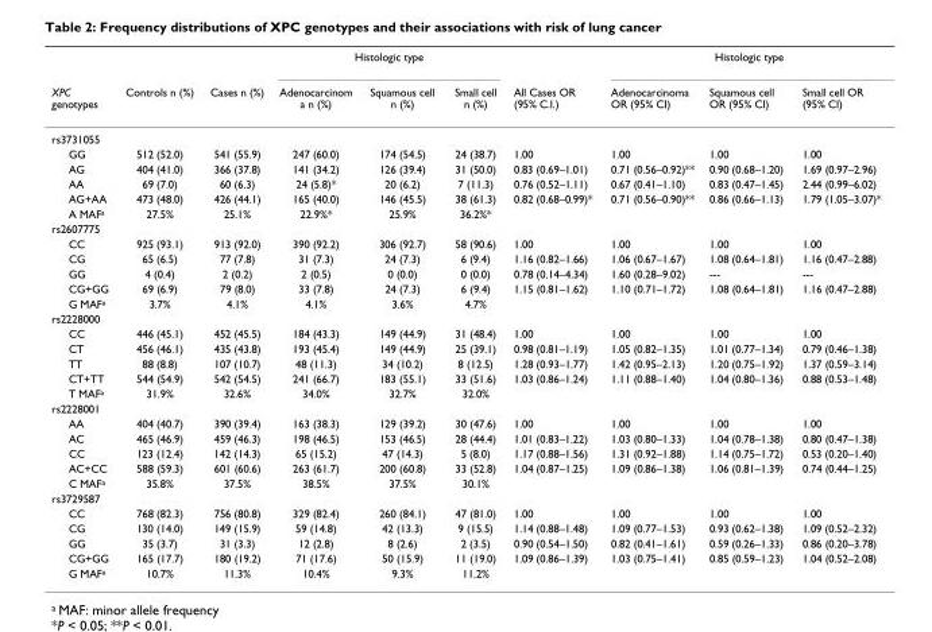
<table><thead><tr><td rowspan="2">XPC genotypes</td><td rowspan="2">Controls n (%)</td><td rowspan="2">Cases n (%)</td><td colspan="3">Histologic type</td><td rowspan="2">All Cases OR (95% C.I.)</td><td colspan="3">Histologic type</td></tr><tr><td>Adenocarcinom a n (%)</td><td>Squamous cell n (%)</td><td>Small cell n (%)</td><td>Adenocarcinoma OR (95% CI)</td><td>Squamous cell OR (95% CI)</td><td>Small cell OR (95% CI)</td></tr></thead><tbody><tr><td colspan="10">rs3731055</td></tr><tr><td>GG</td><td>512 (52.0)</td><td>541 (55.9)</td><td>247 (60.0)</td><td>174 (54.5)</td><td>24 (38.7)</td><td>1.00</td><td>1.00</td><td>1.00</td><td>1.00</td></tr><tr><td>AG</td><td>404 (41.0)</td><td>366 (37.8)</td><td>141 (34.2)</td><td>126 (39.4)</td><td>31 (50.0)</td><td>0.83 (0.69–1.01)</td><td>0.71 (0.56–0.92)**</td><td>0.90 (0.68–1.20)</td><td>1.69 (0.97–2.96)</td></tr><tr><td>AA</td><td>69 (7.0)</td><td>60 (6.3)</td><td>24 (5.8)*</td><td>20 (6.2)</td><td>7 (11.3)</td><td>0.76 (0.52–1.11)</td><td>0.67 (0.41–1.10)</td><td>0.83 (0.47–1.45)</td><td>2.44 (0.99–6.02)</td></tr><tr><td>AG+AA</td><td>473 (48.0)</td><td>426 (44.1)</td><td>165 (40.0)</td><td>146 (45.5)</td><td>38 (61.3)</td><td>0.82 (0.68–0.99)*</td><td>0.71 (0.56–0.90)**</td><td>0.86 (0.66–1.13)</td><td>1.79 (1.05–3.07)*</td></tr><tr><td>A MAFa</td><td>27.5%</td><td>25.1%</td><td>22.9%*</td><td>25.9%</td><td>36.2%*</td><td></td><td></td><td></td><td></td></tr><tr><td colspan="10">rs2607775</td></tr><tr><td>CC</td><td>925 (93.1)</td><td>913 (92.0)</td><td>390 (92.2)</td><td>306 (92.7)</td><td>58 (90.6)</td><td>1.00</td><td>1.00</td><td>1.00</td><td>1.00</td></tr><tr><td>CG</td><td>65 (6.5)</td><td>77 (7.8)</td><td>31 (7.3)</td><td>24 (7.3)</td><td>6 (9.4)</td><td>1.16 (0.82–1.66)</td><td>1.06 (0.67–1.67)</td><td>1.08 (0.64–1.81)</td><td>1.16 (0.47–2.88)</td></tr><tr><td>GG</td><td>4 (0.4)</td><td>2 (0.2)</td><td>2 (0.5)</td><td>0 (0.0)</td><td>0 (0.0)</td><td>0.78 (0.14–4.34)</td><td>1.60 (0.28–9.02)</td><td>---</td><td>---</td></tr><tr><td>CG+GG</td><td>69 (6.9)</td><td>79 (8.0)</td><td>33 (7.8)</td><td>24 (7.3)</td><td>6 (9.4)</td><td>1.15 (0.81–1.62)</td><td>1.10 (0.71–1.72)</td><td>1.08 (0.64–1.81)</td><td>1.16 (0.47–2.88)</td></tr><tr><td>G MAFa</td><td>3.7%</td><td>4.1%</td><td>4.1%</td><td>3.6%</td><td>4.7%</td><td></td><td></td><td></td><td></td></tr><tr><td colspan="10">rs2228000</td></tr><tr><td>CC</td><td>446 (45.1)</td><td>452 (45.5)</td><td>184 (43.3)</td><td>149 (44.9)</td><td>31 (48.4)</td><td>1.00</td><td>1.00</td><td>1.00</td><td>1.00</td></tr><tr><td>CT</td><td>456 (46.1)</td><td>435 (43.8)</td><td>193 (45.4)</td><td>149 (44.9)</td><td>25 (39.1)</td><td>0.98 (0.81–1.19)</td><td>1.05 (0.82–1.35)</td><td>1.01 (0.77–1.34)</td><td>0.79 (0.46–1.38)</td></tr><tr><td>TT</td><td>88 (8.8)</td><td>107 (10.7)</td><td>48 (11.3)</td><td>34 (10.2)</td><td>8 (12.5)</td><td>1.28 (0.93–1.77)</td><td>1.42 (0.95–2.13)</td><td>1.20 (0.75–1.92)</td><td>1.37 (0.59–3.14)</td></tr><tr><td>CT+TT</td><td>544 (54.9)</td><td>542 (54.5)</td><td>241 (66.7)</td><td>183 (55.1)</td><td>33 (51.6)</td><td>1.03 (0.86–1.24)</td><td>1.11 (0.88–1.40)</td><td>1.04 (0.80–1.36)</td><td>0.88 (0.53–1.48)</td></tr><tr><td>T MAFa</td><td>31.9%</td><td>32.6%</td><td>34.0%</td><td>32.7%</td><td>32.0%</td><td></td><td></td><td></td><td></td></tr><tr><td colspan="10">rs2228001</td></tr><tr><td>AA</td><td>404 (40.7)</td><td>390 (39.4)</td><td>163 (38.3)</td><td>129 (39.2)</td><td>30 (47.6)</td><td>1.00</td><td>1.00</td><td>1.00</td><td>1.00</td></tr><tr><td>AC</td><td>465 (46.9)</td><td>459 (46.3)</td><td>198 (46.5)</td><td>153 (46.5)</td><td>28 (44.4)</td><td>1.01 (0.83–1.22)</td><td>1.03 (0.80–1.33)</td><td>1.04 (0.78–1.38)</td><td>0.80 (0.47–1.38)</td></tr><tr><td>CC</td><td>123 (12.4)</td><td>142 (14.3)</td><td>65 (15.2)</td><td>47 (14.3)</td><td>5 (8.0)</td><td>1.17 (0.88–1.56)</td><td>1.31 (0.92–1.88)</td><td>1.14 (0.75–1.72)</td><td>0.53 (0.20–1.40)</td></tr><tr><td>AC+CC</td><td>588 (59.3)</td><td>601 (60.6)</td><td>263 (61.7)</td><td>200 (60.8)</td><td>33 (52.8)</td><td>1.04 (0.87–1.25)</td><td>1.09 (0.86–1.38)</td><td>1.06 (0.81–1.39)</td><td>0.74 (0.44–1.25)</td></tr><tr><td>C MAFa</td><td>35.8%</td><td>37.5%</td><td>38.5%</td><td>37.5%</td><td>30.1%</td><td></td><td></td><td></td><td></td></tr><tr><td colspan="10">rs3729587</td></tr><tr><td>CC</td><td>768 (82.3)</td><td>756 (80.8)</td><td>329 (82.4)</td><td>260 (84.1)</td><td>47 (81.0)</td><td>1.00</td><td>1.00</td><td>1.00</td><td>1.00</td></tr><tr><td>CG</td><td>130 (14.0)</td><td>149 (15.9)</td><td>59 (14.8)</td><td>42 (13.3)</td><td>9 (15.5)</td><td>1.14 (0.88–1.48)</td><td>1.09 (0.77–1.53)</td><td>0.93 (0.62–1.38)</td><td>1.09 (0.52–2.32)</td></tr><tr><td>GG</td><td>35 (3.7)</td><td>31 (3.3)</td><td>12 (2.8)</td><td>8 (2.6)</td><td>2 (3.5)</td><td>0.90 (0.54–1.50)</td><td>0.82 (0.41–1.61)</td><td>0.59 (0.26–1.33)</td><td>0.86 (0.20–3.78)</td></tr><tr><td>CG+GG</td><td>165 (17.7)</td><td>180 (19.2)</td><td>71 (17.6)</td><td>50 (15.9)</td><td>11 (19.0)</td><td>1.09 (0.86–1.39)</td><td>1.03 (0.75–1.41)</td><td>0.85 (0.59–1.23)</td><td>1.04 (0.52–2.08)</td></tr><tr><td>G MAFa</td><td>10.7%</td><td>11.3%</td><td>10.4%</td><td>9.3%</td><td>11.2%</td><td></td><td></td><td></td><td></td></tr></tbody></table>